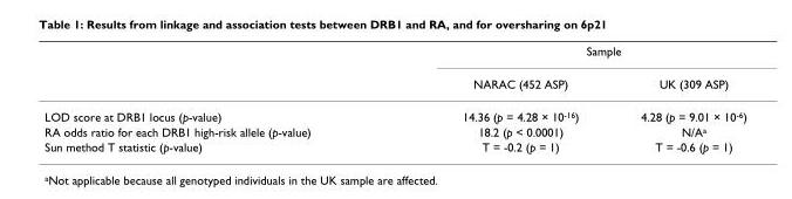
<table><thead><tr><td rowspan="2"></td><td colspan="2">Sample</td></tr><tr><td>NARAC (452 ASP)</td><td>UK (309 ASP)</td></tr></thead><tbody><tr><td>LOD score at DRB1 locus (p-value)</td><td>14.36 (p = 4.28 × 10<sup>-16</sup>)</td><td>4.28 (p = 9.01 × 10<sup>-6</sup>)</td></tr><tr><td>RA odds ratio for each DRB1 high-risk allele (p-value)</td><td>18.2 (p &lt; 0.0001)</td><td>N/A<sup>a</sup></td></tr><tr><td>Sun method T statistic (p-value)</td><td>T = -0.2 (p = 1)</td><td>T = -0.6 (p = 1)</td></tr></tbody></table>